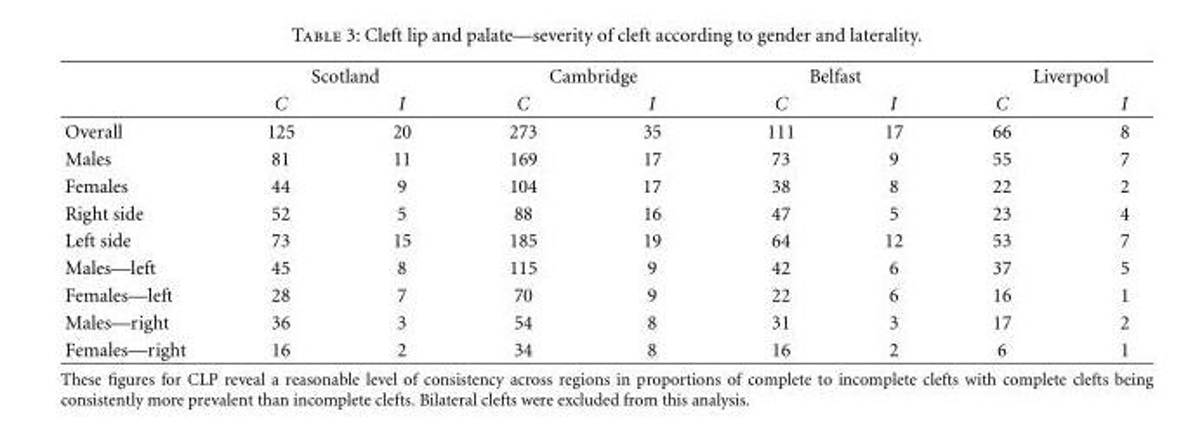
<table><thead><tr><td rowspan="2"></td><td colspan="2">Scotland</td><td colspan="2">Cambridge</td><td colspan="2">Belfast</td><td colspan="2">Liverpool</td></tr><tr><td>C</td><td>I</td><td>C</td><td>I</td><td>C</td><td>I</td><td>C</td><td>I</td></tr></thead><tbody><tr><td>Overall</td><td>125</td><td>20</td><td>273</td><td>35</td><td>111</td><td>17</td><td>66</td><td>8</td></tr><tr><td>Males</td><td>81</td><td>11</td><td>169</td><td>17</td><td>73</td><td>9</td><td>55</td><td>7</td></tr><tr><td>Females</td><td>44</td><td>9</td><td>104</td><td>17</td><td>38</td><td>8</td><td>22</td><td>2</td></tr><tr><td>Right side</td><td>52</td><td>5</td><td>88</td><td>16</td><td>47</td><td>5</td><td>23</td><td>4</td></tr><tr><td>Left side</td><td>73</td><td>15</td><td>185</td><td>19</td><td>64</td><td>12</td><td>53</td><td>7</td></tr><tr><td>Males—left</td><td>45</td><td>8</td><td>115</td><td>9</td><td>42</td><td>6</td><td>37</td><td>5</td></tr><tr><td>Females—left</td><td>28</td><td>7</td><td>70</td><td>9</td><td>22</td><td>6</td><td>16</td><td>1</td></tr><tr><td>Males—right</td><td>36</td><td>3</td><td>54</td><td>8</td><td>31</td><td>3</td><td>17</td><td>2</td></tr><tr><td>Females—right</td><td>16</td><td>2</td><td>34</td><td>8</td><td>16</td><td>2</td><td>6</td><td>1</td></tr></tbody></table>